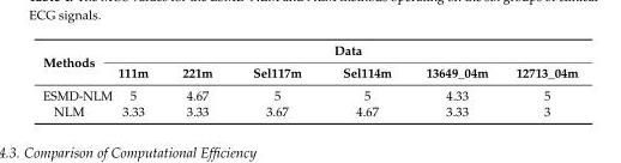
<table><thead><tr><td rowspan="2">Methods</td><td colspan="6">Data</td></tr><tr><td>111m</td><td>221m</td><td>Sel117m</td><td>Sel114m</td><td>13649_04m</td><td>12713_04m</td></tr></thead><tbody><tr><td>ESMD-NLM</td><td>5</td><td>4.67</td><td>5</td><td>5</td><td>4.33</td><td>5</td></tr><tr><td>NLM</td><td>3.33</td><td>3.33</td><td>3.67</td><td>4.67</td><td>3.33</td><td>3</td></tr></tbody></table>